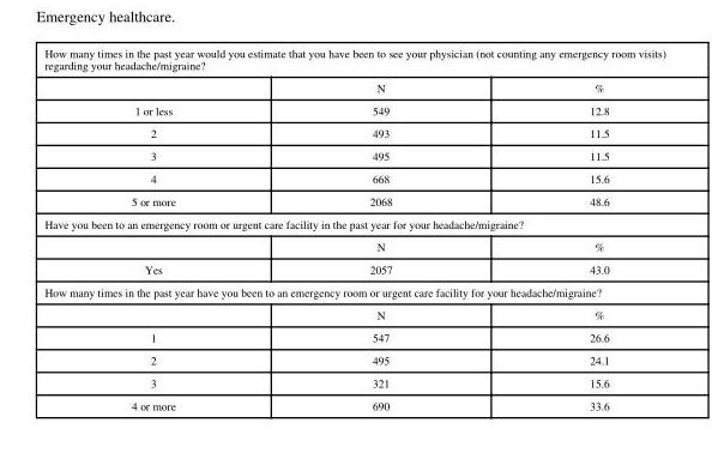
<table><tbody><tr><td colspan="3">How many times in the past year would you estimate that you have been to see your physician (not counting any emergency room visits) regarding your headache/migraine?</td></tr><tr><td></td><td>N</td><td>%</td></tr><tr><td>1 or less</td><td>549</td><td>12.8</td></tr><tr><td>2</td><td>493</td><td>11.5</td></tr><tr><td>3</td><td>495</td><td>11.5</td></tr><tr><td>4</td><td>668</td><td>15.6</td></tr><tr><td>5 or more</td><td>2068</td><td>48.6</td></tr><tr><td colspan="3">Have you been to an emergency room or urgent care facility in the past year for your headache/migraine?</td></tr><tr><td></td><td>N</td><td>%</td></tr><tr><td>Yes</td><td>2057</td><td>43.0</td></tr><tr><td colspan="3">How many times in the past year have you been to an emergency room or urgent care facility for your headache/migraine?</td></tr><tr><td></td><td>N</td><td>%</td></tr><tr><td>1</td><td>547</td><td>26.6</td></tr><tr><td>2</td><td>495</td><td>24.1</td></tr><tr><td>3</td><td>321</td><td>15.6</td></tr><tr><td>4 or more</td><td>690</td><td>33.6</td></tr></tbody></table>